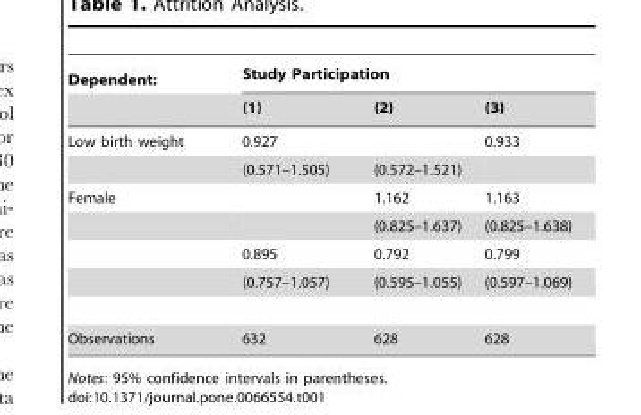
<table><thead><tr><td rowspan="2">Dependent:</td><td colspan="3">Study Participation</td></tr><tr><td>(1)</td><td>(2)</td><td>(3)</td></tr></thead><tbody><tr><td rowspan="2">Low birth weight</td><td>0.927</td><td></td><td>0.933</td></tr><tr><td>(0.571–1.505)</td><td>(0.572–1.521)</td><td></td></tr><tr><td rowspan="4">Female</td><td></td><td>1.162</td><td>1.163</td></tr><tr><td></td><td>(0.825–1.637)</td><td>(0.825–1.638)</td></tr><tr><td>0.895</td><td>0.792</td><td>0.799</td></tr><tr><td>(0.757–1.057)</td><td>(0.595–1.055)</td><td>(0.597–1.069)</td></tr><tr><td>Observations</td><td>632</td><td>628</td><td>628</td></tr></tbody></table>